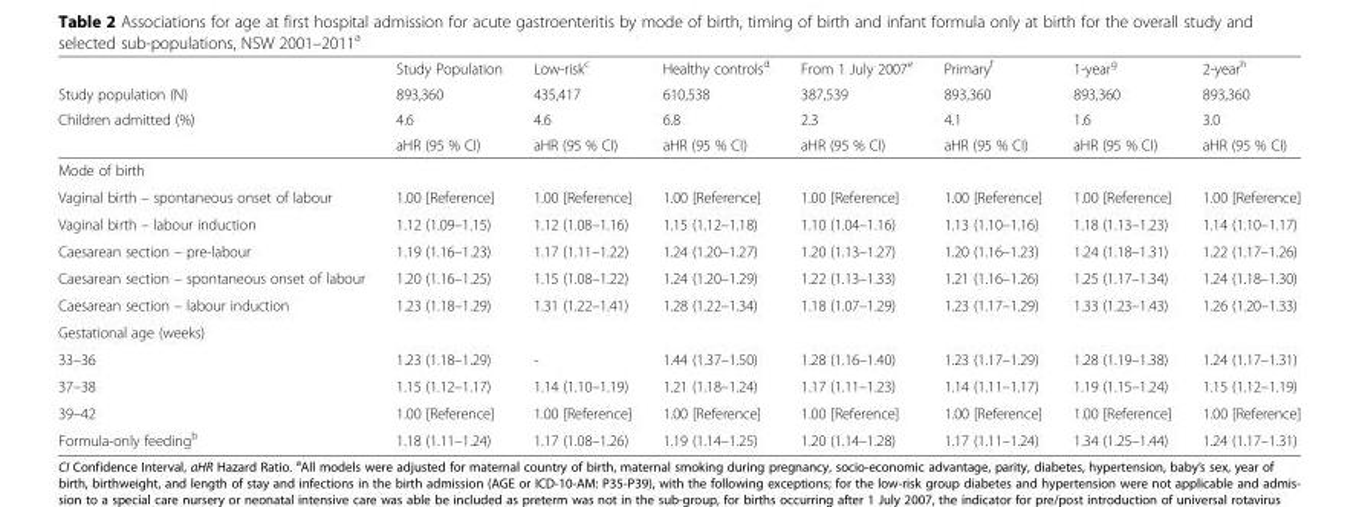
<table><thead><tr><td rowspan="4">Study population (N) Children admitted (%)</td><td rowspan="4">Study Population 893,360 4.6 aHR (95 % CI)</td><td rowspan="4">Low-risk<sup>c</sup> 435,417 4.6 aHR (95 % CI)</td><td rowspan="4">Healthy controls<sup>d</sup> 610,538 6.8 aHR (95 % CI)</td><td rowspan="4">From 1 July 2007<sup>e</sup> 387,539 2.3 aHR (95 % CI)</td><td rowspan="4">Primary<sup>f</sup> 893,360 4.1 aHR (95 % CI)</td><td rowspan="4">1-year<sup>g</sup> 893,360 1.6 aHR (95 % CI)</td><td rowspan="4">2-year<sup>h</sup> 893,360 3.0 aHR (95 % CI)</td></tr><tr></tr><tr></tr><tr></tr></thead><tbody><tr><td colspan="8">Mode of birth</td></tr><tr><td>Vaginal birth – spontaneous onset of labour</td><td>1.00 [Reference]</td><td>1.00 [Reference]</td><td>1.00 [Reference]</td><td>1.00 [Reference]</td><td>1.00 [Reference]</td><td>1.00 [Reference]</td><td>1.00 [Reference]</td></tr><tr><td>Vaginal birth – labour induction</td><td>1.12 (1.09–1.15)</td><td>1.12 (1.08–1.16)</td><td>1.15 (1.12–1.18)</td><td>1.10 (1.04–1.16)</td><td>1.13 (1.10–1.16)</td><td>1.18 (1.13–1.23)</td><td>1.14 (1.10–1.17)</td></tr><tr><td>Caesarean section – pre-labour</td><td>1.19 (1.16–1.23)</td><td>1.17 (1.11–1.22)</td><td>1.24 (1.20–1.27)</td><td>1.20 (1.13–1.27)</td><td>1.20 (1.16–1.23)</td><td>1.24 (1.18–1.31)</td><td>1.22 (1.17–1.26)</td></tr><tr><td>Caesarean section – spontaneous onset of labour</td><td>1.20 (1.16–1.25)</td><td>1.15 (1.08–1.22)</td><td>1.24 (1.20–1.29)</td><td>1.22 (1.13–1.33)</td><td>1.21 (1.16–1.26)</td><td>1.25 (1.17–1.34)</td><td>1.24 (1.18–1.30)</td></tr><tr><td>Caesarean section – labour induction</td><td>1.23 (1.18–1.29)</td><td>1.31 (1.22–1.41)</td><td>1.28 (1.22–1.34)</td><td>1.18 (1.07–1.29)</td><td>1.23 (1.17–1.29)</td><td>1.33 (1.23–1.43)</td><td>1.26 (1.20–1.33)</td></tr><tr><td colspan="8">Gestational age (weeks)</td></tr><tr><td>33–36</td><td>1.23 (1.18–1.29)</td><td>-</td><td>1.44 (1.37–1.50)</td><td>1.28 (1.16–1.40)</td><td>1.23 (1.17–1.29)</td><td>1.28 (1.19–1.38)</td><td>1.24 (1.17–1.31)</td></tr><tr><td>37–38</td><td>1.15 (1.12–1.17)</td><td>1.14 (1.10–1.19)</td><td>1.21 (1.18–1.24)</td><td>1.17 (1.11–1.23)</td><td>1.14 (1.11–1.17)</td><td>1.19 (1.15–1.24)</td><td>1.15 (1.12–1.19)</td></tr><tr><td>39–42</td><td>1.00 [Reference]</td><td>1.00 [Reference]</td><td>1.00 [Reference]</td><td>1.00 [Reference]</td><td>1.00 [Reference]</td><td>1.00 [Reference]</td><td>1.00 [Reference]</td></tr><tr><td>Formula-only feeding<sup>b</sup></td><td>1.18 (1.11–1.24)</td><td>1.17 (1.08–1.26)</td><td>1.19 (1.14–1.25)</td><td>1.20 (1.14–1.28)</td><td>1.17 (1.11–1.24)</td><td>1.34 (1.25–1.44)</td><td>1.24 (1.17–1.31)</td></tr></tbody></table>